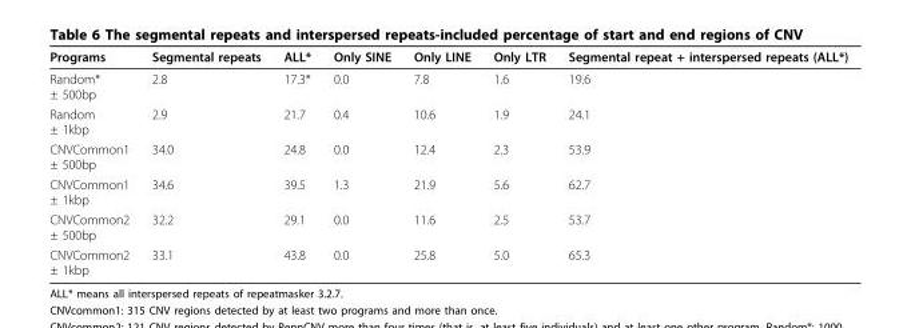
<table><thead><tr><td>Programs</td><td>Segmental repeats</td><td>ALL*</td><td>Only SINE</td><td>Only LINE</td><td>Only LTR</td><td>Segmental repeat + interspersed repeats (ALL*)</td></tr></thead><tbody><tr><td>Random* ± 500bp</td><td>2.8</td><td>17.3*</td><td>0.0</td><td>7.8</td><td>1.6</td><td>19.6</td></tr><tr><td>Random ± 1kbp</td><td>2.9</td><td>21.7</td><td>0.4</td><td>10.6</td><td>1.9</td><td>24.1</td></tr><tr><td>CNVCommon1 ± 500bp</td><td>34.0</td><td>24.8</td><td>0.0</td><td>12.4</td><td>2.3</td><td>53.9</td></tr><tr><td>CNVCommon1 ± 1kbp</td><td>34.6</td><td>39.5</td><td>1.3</td><td>21.9</td><td>5.6</td><td>62.7</td></tr><tr><td>CNVCommon2 ± 500bp</td><td>32.2</td><td>29.1</td><td>0.0</td><td>11.6</td><td>2.5</td><td>53.7</td></tr><tr><td>CNVCommon2 ± 1kbp</td><td>33.1</td><td>43.8</td><td>0.0</td><td>25.8</td><td>5.0</td><td>65.3</td></tr></tbody></table>